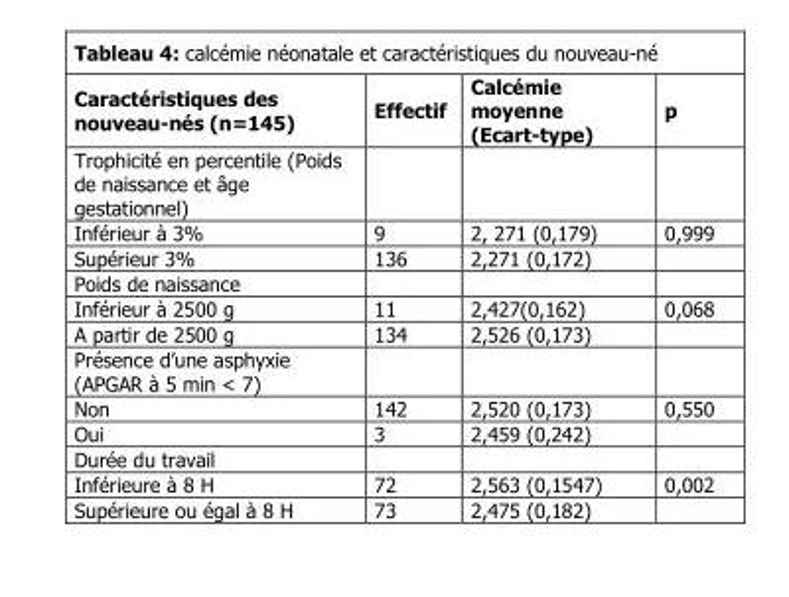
<table><thead><tr><td>Caractéristiques des nouveau-nés (n=145)</td><td>Effectif</td><td>Calcémie moyenne (Ecart-type)</td><td>p</td></tr></thead><tbody><tr><td colspan="4">Trophicité en percentile (Poids de naissance et âge gestationnel)</td></tr><tr><td>Inférieur à 3%</td><td>9</td><td>2, 271 (0,179)</td><td>0,999</td></tr><tr><td>Supérieur 3%</td><td>136</td><td>2,271 (0,172)</td><td></td></tr><tr><td colspan="4">Poids de naissance</td></tr><tr><td>Inférieur à 2500 g</td><td>11</td><td>2,427(0,162)</td><td>0,068</td></tr><tr><td>A partir de 2500 g</td><td>134</td><td>2,526 (0,173)</td><td></td></tr><tr><td colspan="4">Présence d’une asphyxie (APGAR à 5 min &lt; 7)</td></tr><tr><td>Non</td><td>142</td><td>2,520 (0,173)</td><td>0,550</td></tr><tr><td>Oui</td><td>3</td><td>2,459 (0,242)</td><td></td></tr><tr><td colspan="4">Durée du travail</td></tr><tr><td>Inférieure à 8 H</td><td>72</td><td>2,563 (0,1547)</td><td>0,002</td></tr><tr><td>Supérieure ou égal à 8 H</td><td>73</td><td>2,475 (0,182)</td><td></td></tr></tbody></table>